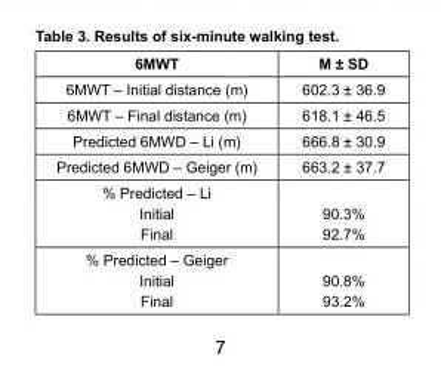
<table><thead><tr><td>6MWT</td><td>M ± SD</td></tr></thead><tbody><tr><td>6MWT – Initial distance (m)</td><td>602.3 ± 36.9</td></tr><tr><td>6MWT – Final distance (m)</td><td>618.1 ± 46.5</td></tr><tr><td>Predicted 6MWD – Li (m)</td><td>666.8 ± 30.9</td></tr><tr><td>Predicted 6MWD – Geiger (m)</td><td>663.2 ± 37.7</td></tr><tr><td>% Predicted – Li Initial Final</td><td>90.3% 92.7%</td></tr><tr><td>% Predicted – Geiger Initial Final</td><td>90.8% 93.2%</td></tr></tbody></table>